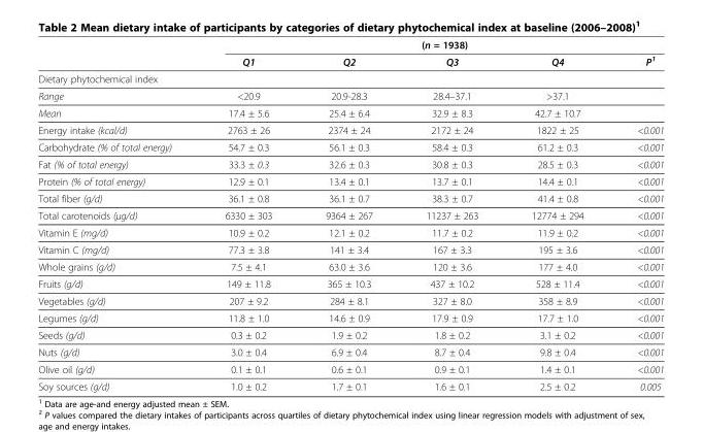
<table><thead><tr><td rowspan="2"></td><td colspan="5">(n = 1938)</td></tr><tr><td>Q1</td><td>Q2</td><td>Q3</td><td>Q4</td><td>P<sup>1</sup></td></tr></thead><tbody><tr><td colspan="6">Dietary phytochemical index</td></tr><tr><td>Range</td><td>&lt;20.9</td><td>20.9-28.3</td><td>28.4–37.1</td><td>&gt;37.1</td><td></td></tr><tr><td>Mean</td><td>17.4 ± 5.6</td><td>25.4 ± 6.4</td><td>32.9 ± 8.3</td><td>42.7 ± 10.7</td><td></td></tr><tr><td>Energy intake (kcal/d)</td><td>2763 ± 26</td><td>2374 ± 24</td><td>2172 ± 24</td><td>1822 ± 25</td><td>&lt;0.001</td></tr><tr><td>Carbohydrate (% of total energy)</td><td>54.7 ± 0.3</td><td>56.1 ± 0.3</td><td>58.4 ± 0.3</td><td>61.2 ± 0.3</td><td>&lt;0.001</td></tr><tr><td>Fat (% of total energy)</td><td>33.3 ± 0.3</td><td>32.6 ± 0.3</td><td>30.8 ± 0.3</td><td>28.5 ± 0.3</td><td>&lt;0.001</td></tr><tr><td>Protein (% of total energy)</td><td>12.9 ± 0.1</td><td>13.4 ± 0.1</td><td>13.7 ± 0.1</td><td>14.4 ± 0.1</td><td>&lt;0.001</td></tr><tr><td>Total fiber (g/d)</td><td>36.1 ± 0.8</td><td>36.1 ± 0.7</td><td>38.3 ± 0.7</td><td>41.4 ± 0.8</td><td>&lt;0.001</td></tr><tr><td>Total carotenoids (μg/d)</td><td>6330 ± 303</td><td>9364 ± 267</td><td>11237 ± 263</td><td>12774 ± 294</td><td>&lt;0.001</td></tr><tr><td>Vitamin E (mg/d)</td><td>10.9 ± 0.2</td><td>12.1 ± 0.2</td><td>11.7 ± 0.2</td><td>11.9 ± 0.2</td><td>&lt;0.001</td></tr><tr><td>Vitamin C (mg/d)</td><td>77.3 ± 3.8</td><td>141 ± 3.4</td><td>167 ± 3.3</td><td>195 ± 3.6</td><td>&lt;0.001</td></tr><tr><td>Whole grains (g/d)</td><td>7.5 ± 4.1</td><td>63.0 ± 3.6</td><td>120 ± 3.6</td><td>177 ± 4.0</td><td>&lt;0.001</td></tr><tr><td>Fruits (g/d)</td><td>149 ± 11.8</td><td>365 ± 10.3</td><td>437 ± 10.2</td><td>528 ± 11.4</td><td>&lt;0.001</td></tr><tr><td>Vegetables (g/d)</td><td>207 ± 9.2</td><td>284 ± 8.1</td><td>327 ± 8.0</td><td>358 ± 8.9</td><td>&lt;0.001</td></tr><tr><td>Legumes (g/d)</td><td>11.8 ± 1.0</td><td>14.6 ± 0.9</td><td>17.9 ± 0.9</td><td>17.7 ± 1.0</td><td>&lt;0.001</td></tr><tr><td>Seeds (g/d)</td><td>0.3 ± 0.2</td><td>1.9 ± 0.2</td><td>1.8 ± 0.2</td><td>3.1 ± 0.2</td><td>&lt;0.001</td></tr><tr><td>Nuts (g/d)</td><td>3.0 ± 0.4</td><td>6.9 ± 0.4</td><td>8.7 ± 0.4</td><td>9.8 ± 0.4</td><td>&lt;0.001</td></tr><tr><td>Olive oil (g/d)</td><td>0.1 ± 0.1</td><td>0.6 ± 0.1</td><td>0.9 ± 0.1</td><td>1.4 ± 0.1</td><td>&lt;0.001</td></tr><tr><td>Soy sources (g/d)</td><td>1.0 ± 0.2</td><td>1.7 ± 0.1</td><td>1.6 ± 0.1</td><td>2.5 ± 0.2</td><td>0.005</td></tr></tbody></table>